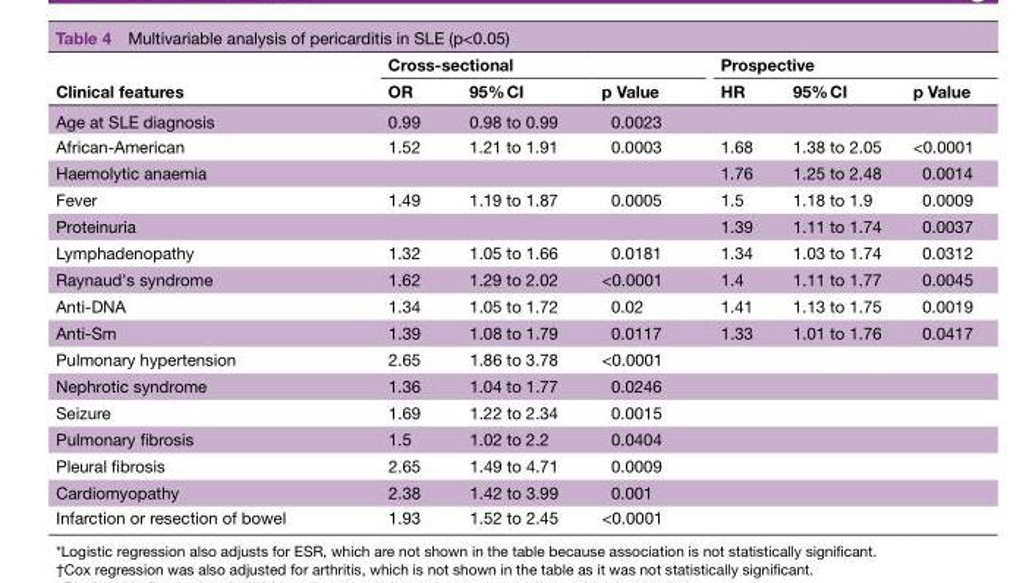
<table><thead><tr><td rowspan="2">Clinical features</td><td colspan="3">Cross-sectional</td><td colspan="3">Prospective</td></tr><tr><td>OR</td><td>95% CI</td><td>p Value</td><td>HR</td><td>95% CI</td><td>p Value</td></tr></thead><tbody><tr><td>Age at SLE diagnosis</td><td>0.99</td><td>0.98 to 0.99</td><td>0.0023</td><td></td><td></td><td></td></tr><tr><td>African-American</td><td>1.52</td><td>1.21 to 1.91</td><td>0.0003</td><td>1.68</td><td>1.38 to 2.05</td><td>&lt;0.0001</td></tr><tr><td>Haemolytic anaemia</td><td></td><td></td><td></td><td>1.76</td><td>1.25 to 2.48</td><td>0.0014</td></tr><tr><td>Fever</td><td>1.49</td><td>1.19 to 1.87</td><td>0.0005</td><td>1.5</td><td>1.18 to 1.9</td><td>0.0009</td></tr><tr><td>Proteinuria</td><td></td><td></td><td></td><td>1.39</td><td>1.11 to 1.74</td><td>0.0037</td></tr><tr><td>Lymphadenopathy</td><td>1.32</td><td>1.05 to 1.66</td><td>0.0181</td><td>1.34</td><td>1.03 to 1.74</td><td>0.0312</td></tr><tr><td>Raynaud&#x27;s syndrome</td><td>1.62</td><td>1.29 to 2.02</td><td>&lt;0.0001</td><td>1.4</td><td>1.11 to 1.77</td><td>0.0045</td></tr><tr><td>Anti-DNA</td><td>1.34</td><td>1.05 to 1.72</td><td>0.02</td><td>1.41</td><td>1.13 to 1.75</td><td>0.0019</td></tr><tr><td>Anti-Sm</td><td>1.39</td><td>1.08 to 1.79</td><td>0.0117</td><td>1.33</td><td>1.01 to 1.76</td><td>0.0417</td></tr><tr><td>Pulmonary hypertension</td><td>2.65</td><td>1.86 to 3.78</td><td>&lt;0.0001</td><td></td><td></td><td></td></tr><tr><td>Nephrotic syndrome</td><td>1.36</td><td>1.04 to 1.77</td><td>0.0246</td><td></td><td></td><td></td></tr><tr><td>Seizure</td><td>1.69</td><td>1.22 to 2.34</td><td>0.0015</td><td></td><td></td><td></td></tr><tr><td>Pulmonary fibrosis</td><td>1.5</td><td>1.02 to 2.2</td><td>0.0404</td><td></td><td></td><td></td></tr><tr><td>Pleural fibrosis</td><td>2.65</td><td>1.49 to 4.71</td><td>0.0009</td><td></td><td></td><td></td></tr><tr><td>Cardiomyopathy</td><td>2.38</td><td>1.42 to 3.99</td><td>0.001</td><td></td><td></td><td></td></tr><tr><td>Infarction or resection of bowel</td><td>1.93</td><td>1.52 to 2.45</td><td>&lt;0.0001</td><td></td><td></td><td></td></tr></tbody></table>